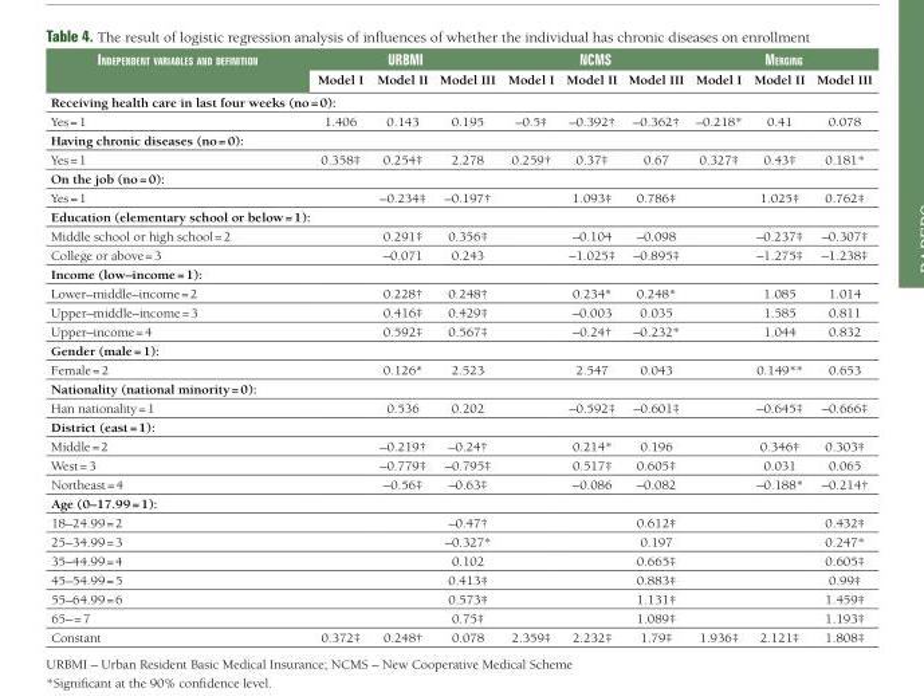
<table><thead><tr><td rowspan="2">Independent varIables and defInItIon</td><td colspan="3">urbmI</td><td colspan="3">ncms</td><td colspan="3">mergIng</td></tr><tr><td>Model I</td><td>Model II</td><td>Model III</td><td>Model I</td><td>Model II</td><td>Model III</td><td>Model I</td><td>Model II</td><td>Model III</td></tr></thead><tbody><tr><td colspan="10">Receiving health care in last four weeks (no = 0):</td></tr><tr><td>Yes = 1</td><td>1.406</td><td>0.143</td><td>0.195</td><td>–0.5‡</td><td>–0.392†</td><td>–0.362†</td><td>–0.218*</td><td>0.41</td><td>0.078</td></tr><tr><td colspan="10">Having chronic diseases (no = 0):</td></tr><tr><td>Yes = 1</td><td>0.358‡</td><td>0.254‡</td><td>2.278</td><td>0.259†</td><td>0.37‡</td><td>0.67</td><td>0.327‡</td><td>0.43‡</td><td>0.181*</td></tr><tr><td colspan="10">On the job (no = 0):</td></tr><tr><td>Yes = 1</td><td></td><td>–0.234‡</td><td>–0.197†</td><td></td><td>1.093‡</td><td>0.786‡</td><td></td><td>1.025‡</td><td>0.762‡</td></tr><tr><td colspan="10">Education (elementary school or below = 1):</td></tr><tr><td>Middle school or high school = 2</td><td></td><td>0.291‡</td><td>0.356‡</td><td></td><td>–0.104</td><td>–0.098</td><td></td><td>–0.237‡</td><td>–0.307‡</td></tr><tr><td>College or above = 3</td><td></td><td>–0.071</td><td>0.243</td><td></td><td>–1.025‡</td><td>–0.895‡</td><td></td><td>–1.275‡</td><td>–1.238‡</td></tr><tr><td colspan="10">Income (low–income = 1):</td></tr><tr><td>Lower–middle–income = 2</td><td></td><td>0.228†</td><td>0.248†</td><td></td><td>0.234*</td><td>0.248*</td><td></td><td>1.085</td><td>1.014</td></tr><tr><td>Upper–middle–income = 3</td><td></td><td>0.416‡</td><td>0.429‡</td><td></td><td>–0.003</td><td>0.035</td><td></td><td>1.585</td><td>0.811</td></tr><tr><td>Upper–income = 4</td><td></td><td>0.592‡</td><td>0.567‡</td><td></td><td>–0.24†</td><td>–0.232*</td><td></td><td>1.044</td><td>0.832</td></tr><tr><td colspan="10">Gender (male = 1):</td></tr><tr><td>Female = 2</td><td></td><td>0.126*</td><td>2.523</td><td></td><td>2.547</td><td>0.043</td><td></td><td>0.149**</td><td>0.653</td></tr><tr><td colspan="10">Nationality (national minority = 0):</td></tr><tr><td>Han nationality = 1</td><td></td><td>0.536</td><td>0.202</td><td></td><td>–0.592‡</td><td>–0.601‡</td><td></td><td>–0.645‡</td><td>–0.666‡</td></tr><tr><td colspan="10">District (east = 1):</td></tr><tr><td>Middle = 2</td><td></td><td>–0.219†</td><td>–0.24†</td><td></td><td>0.214*</td><td>0.196</td><td></td><td>0.346‡</td><td>0.303‡</td></tr><tr><td>West = 3</td><td></td><td>–0.779‡</td><td>–0.795‡</td><td></td><td>0.517‡</td><td>0.605‡</td><td></td><td>0.031</td><td>0.065</td></tr><tr><td>Northeast = 4</td><td></td><td>–0.56‡</td><td>–0.63‡</td><td></td><td>–0.086</td><td>–0.082</td><td></td><td>–0.188*</td><td>–0.214†</td></tr><tr><td colspan="10">Age (0–17.99 = 1):</td></tr><tr><td>18–24.99 = 2</td><td></td><td></td><td>–0.47†</td><td></td><td></td><td>0.612‡</td><td></td><td></td><td>0.432‡</td></tr><tr><td>25–34.99 = 3</td><td></td><td></td><td>–0.327*</td><td></td><td></td><td>0.197</td><td></td><td></td><td>0.247*</td></tr><tr><td>35–44.99 = 4</td><td></td><td></td><td>0.102</td><td></td><td></td><td>0.665‡</td><td></td><td></td><td>0.605‡</td></tr><tr><td>45–54.99 = 5</td><td></td><td></td><td>0.413‡</td><td></td><td></td><td>0.883‡</td><td></td><td></td><td>0.99‡</td></tr><tr><td>55–64.99 = 6</td><td></td><td></td><td>0.573‡</td><td></td><td></td><td>1.131‡</td><td></td><td></td><td>1.459‡</td></tr><tr><td>65– = 7</td><td></td><td></td><td>0.75‡</td><td></td><td></td><td>1.089‡</td><td></td><td></td><td>1.193‡</td></tr><tr><td>Constant</td><td>0.372‡</td><td>0.248†</td><td>0.078</td><td>2.359‡</td><td>2.232‡</td><td>1.79‡</td><td>1.936‡</td><td>2.121‡</td><td>1.808‡</td></tr></tbody></table>